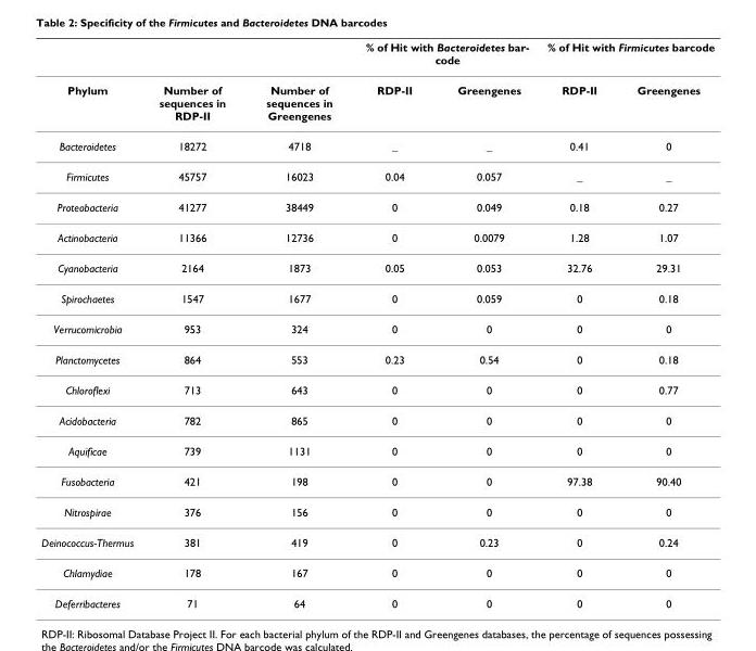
<table><thead><tr><td rowspan="2">Phylum</td><td rowspan="2">Number of sequences in RDP-II</td><td rowspan="2">Number of sequences in Greengenes</td><td colspan="2">% of Hit with Bacteroidetes bar- code</td><td colspan="2">% of Hit with Firmicutes barcode</td></tr><tr><td>RDP-II</td><td>Greengenes</td><td>RDP-II</td><td>Greengenes</td></tr></thead><tbody><tr><td>Bacteroidetes</td><td>18272</td><td>4718</td><td>_</td><td>_</td><td>0.41</td><td>0</td></tr><tr><td>Firmicutes</td><td>45757</td><td>16023</td><td>0.04</td><td>0.057</td><td>_</td><td>_</td></tr><tr><td>Proteobacteria</td><td>41277</td><td>38449</td><td>0</td><td>0.049</td><td>0.18</td><td>0.27</td></tr><tr><td>Actinobacteria</td><td>11366</td><td>12736</td><td>0</td><td>0.0079</td><td>1.28</td><td>1.07</td></tr><tr><td>Cyanobacteria</td><td>2164</td><td>1873</td><td>0.05</td><td>0.053</td><td>32.76</td><td>29.31</td></tr><tr><td>Spirochaetes</td><td>1547</td><td>1677</td><td>0</td><td>0.059</td><td>0</td><td>0.18</td></tr><tr><td>Verrucomicrobia</td><td>953</td><td>324</td><td>0</td><td>0</td><td>0</td><td>0</td></tr><tr><td>Planctomycetes</td><td>864</td><td>553</td><td>0.23</td><td>0.54</td><td>0</td><td>0.18</td></tr><tr><td>Chloroflexi</td><td>713</td><td>643</td><td>0</td><td>0</td><td>0</td><td>0.77</td></tr><tr><td>Acidobacteria</td><td>782</td><td>865</td><td>0</td><td>0</td><td>0</td><td>0</td></tr><tr><td>Aquificae</td><td>739</td><td>1131</td><td>0</td><td>0</td><td>0</td><td>0</td></tr><tr><td>Fusobacteria</td><td>421</td><td>198</td><td>0</td><td>0</td><td>97.38</td><td>90.40</td></tr><tr><td>Nitrospirae</td><td>376</td><td>156</td><td>0</td><td>0</td><td>0</td><td>0</td></tr><tr><td>Deinococcus-Thermus</td><td>381</td><td>419</td><td>0</td><td>0.23</td><td>0</td><td>0.24</td></tr><tr><td>Chlamydiae</td><td>178</td><td>167</td><td>0</td><td>0</td><td>0</td><td>0</td></tr><tr><td>Deferribacteres</td><td>71</td><td>64</td><td>0</td><td>0</td><td>0</td><td>0</td></tr></tbody></table>